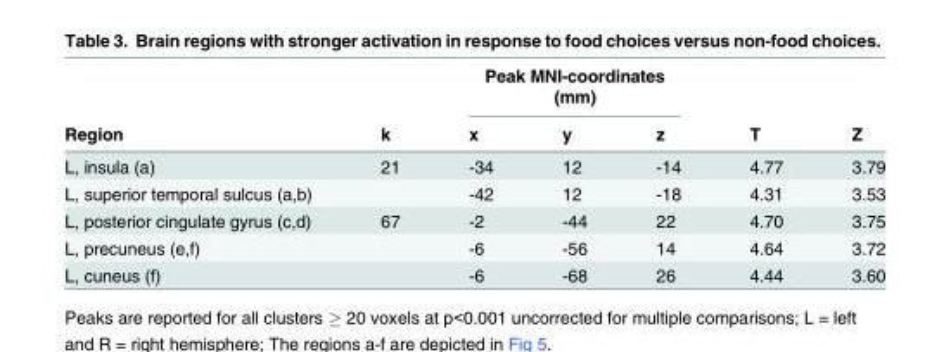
<table><thead><tr><td rowspan="2">Region</td><td rowspan="2">k</td><td colspan="3">Peak MNI-coordinates (mm)</td><td rowspan="2">T</td><td rowspan="2">Z</td></tr><tr><td>x</td><td>y</td><td>z</td></tr></thead><tbody><tr><td>L, insula (a)</td><td>21</td><td>-34</td><td>12</td><td>-14</td><td>4.77</td><td>3.79</td></tr><tr><td>L, superior temporal sulcus (a,b)</td><td></td><td>-42</td><td>12</td><td>-18</td><td>4.31</td><td>3.53</td></tr><tr><td>L, posterior cingulate gyrus (c,d)</td><td>67</td><td>-2</td><td>-44</td><td>22</td><td>4.70</td><td>3.75</td></tr><tr><td>L, precuneus (e,f)</td><td></td><td>-6</td><td>-56</td><td>14</td><td>4.64</td><td>3.72</td></tr><tr><td>L, cuneus (f)</td><td></td><td>-6</td><td>-68</td><td>26</td><td>4.44</td><td>3.60</td></tr></tbody></table>